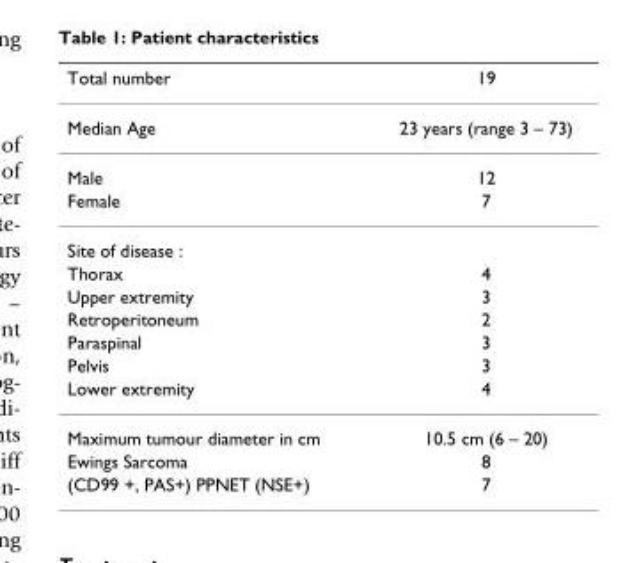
<table><thead><tr><td>Total number</td><td>19</td></tr></thead><tbody><tr><td>Median Age</td><td>23 years (range 3 – 73)</td></tr><tr><td>Male</td><td>12</td></tr><tr><td>Female</td><td>7</td></tr><tr><td colspan="2">Site of disease :</td></tr><tr><td>Thorax</td><td>4</td></tr><tr><td>Upper extremity</td><td>3</td></tr><tr><td>Retroperitoneum</td><td>2</td></tr><tr><td>Paraspinal</td><td>3</td></tr><tr><td>Pelvis</td><td>3</td></tr><tr><td>Lower extremity</td><td>4</td></tr><tr><td>Maximum tumour diameter in cm</td><td>10.5 cm (6 – 20)</td></tr><tr><td>Ewings Sarcoma</td><td>8</td></tr><tr><td>(CD99 +, PAS+) PPNET (NSE+)</td><td>7</td></tr></tbody></table>